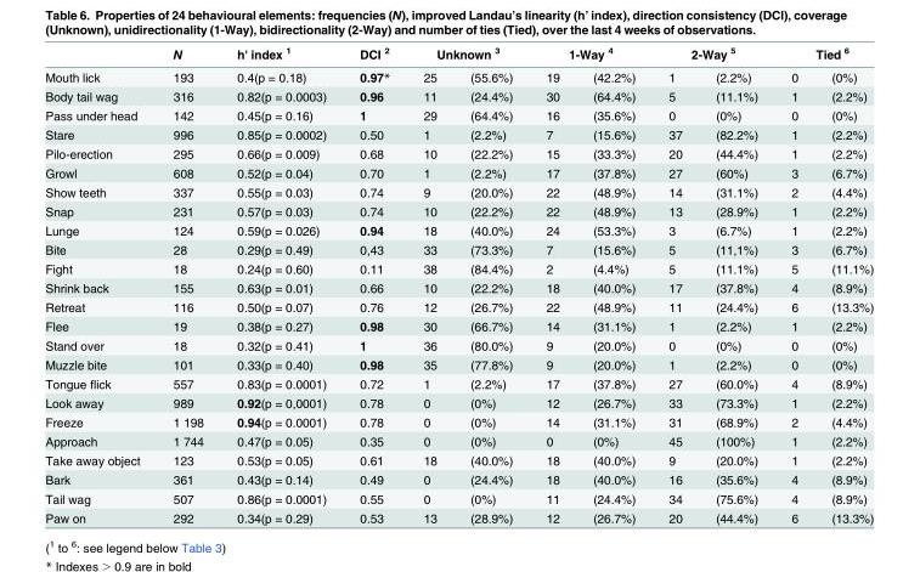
<table><thead><tr><td rowspan="2">Mouth lick</td><td rowspan="2">N 193</td><td rowspan="2">h&#x27; index <sup>1</sup> 0.4(p = 0.18)</td><td rowspan="2">DCI <sup>2</sup> 0.97*</td><td colspan="2">Unknown <sup>3</sup></td><td colspan="2">1-Way <sup>4</sup></td><td colspan="2">2-Way <sup>5</sup></td><td colspan="2">Tied <sup>6</sup></td></tr><tr><td>25</td><td>(55.6%)</td><td>19</td><td>(42.2%)</td><td>1</td><td>(2.2%)</td><td>0</td><td>(0%)</td></tr></thead><tbody><tr><td>Body tail wag</td><td>316</td><td>0.82(p = 0.0003)</td><td>0.96</td><td>11</td><td>(24.4%)</td><td>30</td><td>(64.4%)</td><td>5</td><td>(11.1%)</td><td>1</td><td>(2.2%)</td></tr><tr><td>Pass under head</td><td>142</td><td>0.45(p = 0.16)</td><td>1</td><td>29</td><td>(64.4%)</td><td>16</td><td>(35.6%)</td><td>0</td><td>(0%)</td><td>0</td><td>(0%)</td></tr><tr><td>Stare</td><td>996</td><td>0.85(p = 0.0002)</td><td>0.50</td><td>1</td><td>(2.2%)</td><td>7</td><td>(15.6%)</td><td>37</td><td>(82.2%)</td><td>1</td><td>(2.2%)</td></tr><tr><td>Pilo-erection</td><td>295</td><td>0.66(p = 0.009)</td><td>0.68</td><td>10</td><td>(22.2%)</td><td>15</td><td>(33.3%)</td><td>20</td><td>(44.4%)</td><td>1</td><td>(2.2%)</td></tr><tr><td>Growl</td><td>608</td><td>0.52(p = 0.04)</td><td>0.70</td><td>1</td><td>(2.2%)</td><td>17</td><td>(37.8%)</td><td>27</td><td>(60%)</td><td>3</td><td>(6.7%)</td></tr><tr><td>Show teeth</td><td>337</td><td>0.55(p = 0.03)</td><td>0.74</td><td>9</td><td>(20.0%)</td><td>22</td><td>(48.9%)</td><td>14</td><td>(31.1%)</td><td>2</td><td>(4.4%)</td></tr><tr><td>Snap</td><td>231</td><td>0.57(p = 0.03)</td><td>0.74</td><td>10</td><td>(22.2%)</td><td>22</td><td>(48.9%)</td><td>13</td><td>(28.9%)</td><td>1</td><td>(2.2%)</td></tr><tr><td>Lunge</td><td>124</td><td>0.59(p = 0.026)</td><td>0.94</td><td>18</td><td>(40.0%)</td><td>24</td><td>(53.3%)</td><td>3</td><td>(6.7%)</td><td>1</td><td>(2.2%)</td></tr><tr><td>Bite</td><td>28</td><td>0.29(p = 0.49)</td><td>0,43</td><td>33</td><td>(73.3%)</td><td>7</td><td>(15.6%)</td><td>5</td><td>(11,1%)</td><td>3</td><td>(6.7%)</td></tr><tr><td>Fight</td><td>18</td><td>0.24(p = 0.60)</td><td>0.11</td><td>38</td><td>(84.4%)</td><td>2</td><td>(4.4%)</td><td>5</td><td>(11.1%)</td><td>5</td><td>(11.1%)</td></tr><tr><td>Shrink back</td><td>155</td><td>0.63(p = 0.01)</td><td>0.66</td><td>10</td><td>(22.2%)</td><td>18</td><td>(40.0%)</td><td>17</td><td>(37.8%)</td><td>4</td><td>(8.9%)</td></tr><tr><td>Retreat</td><td>116</td><td>0.50(p = 0.07)</td><td>0.76</td><td>12</td><td>(26.7%)</td><td>22</td><td>(48.9%)</td><td>11</td><td>(24.4%)</td><td>6</td><td>(13.3%)</td></tr><tr><td>Flee</td><td>19</td><td>0.38(p = 0.27)</td><td>0.98</td><td>30</td><td>(66.7%)</td><td>14</td><td>(31.1%)</td><td>1</td><td>(2.2%)</td><td>1</td><td>(2.2%)</td></tr><tr><td>Stand over</td><td>18</td><td>0.32(p = 0.41)</td><td>1</td><td>36</td><td>(80.0%)</td><td>9</td><td>(20.0%)</td><td>0</td><td>(0%)</td><td>0</td><td>(0%)</td></tr><tr><td>Muzzle bite</td><td>101</td><td>0.33(p = 0.40)</td><td>0.98</td><td>35</td><td>(77.8%)</td><td>9</td><td>(20.0%)</td><td>1</td><td>(2.2%)</td><td>0</td><td>(0%)</td></tr><tr><td>Tongue flick</td><td>557</td><td>0.83(p = 0.0001)</td><td>0.72</td><td>1</td><td>(2.2%)</td><td>17</td><td>(37.8%)</td><td>27</td><td>(60.0%)</td><td>4</td><td>(8.9%)</td></tr><tr><td>Look away</td><td>989</td><td>0.92(p = 0,0001)</td><td>0.78</td><td>0</td><td>(0%)</td><td>12</td><td>(26.7%)</td><td>33</td><td>(73.3%)</td><td>1</td><td>(2.2%)</td></tr><tr><td>Freeze</td><td>1 198</td><td>0.94(p = 0.0001)</td><td>0.78</td><td>0</td><td>(0%)</td><td>14</td><td>(31.1%)</td><td>31</td><td>(68.9%)</td><td>2</td><td>(4.4%)</td></tr><tr><td>Approach</td><td>1 744</td><td>0.47(p = 0.05)</td><td>0.35</td><td>0</td><td>(0%)</td><td>0</td><td>(0%)</td><td>45</td><td>(100%)</td><td>1</td><td>(2.2%)</td></tr><tr><td>Take away object</td><td>123</td><td>0.53(p = 0.05)</td><td>0.61</td><td>18</td><td>(40.0%)</td><td>18</td><td>(40.0%)</td><td>9</td><td>(20.0%)</td><td>1</td><td>(2.2%)</td></tr><tr><td>Bark</td><td>361</td><td>0.43(p = 0.14)</td><td>0.49</td><td>0</td><td>(24.4%)</td><td>18</td><td>(40.0%)</td><td>16</td><td>(35.6%)</td><td>4</td><td>(8.9%)</td></tr><tr><td>Tail wag</td><td>507</td><td>0.86(p = 0.0001)</td><td>0.55</td><td>0</td><td>(0%)</td><td>11</td><td>(24.4%)</td><td>34</td><td>(75.6%)</td><td>4</td><td>(8.9%)</td></tr><tr><td>Paw on</td><td>292</td><td>0.34(p = 0.29)</td><td>0.53</td><td>13</td><td>(28.9%)</td><td>12</td><td>(26.7%)</td><td>20</td><td>(44.4%)</td><td>6</td><td>(13.3%)</td></tr></tbody></table>